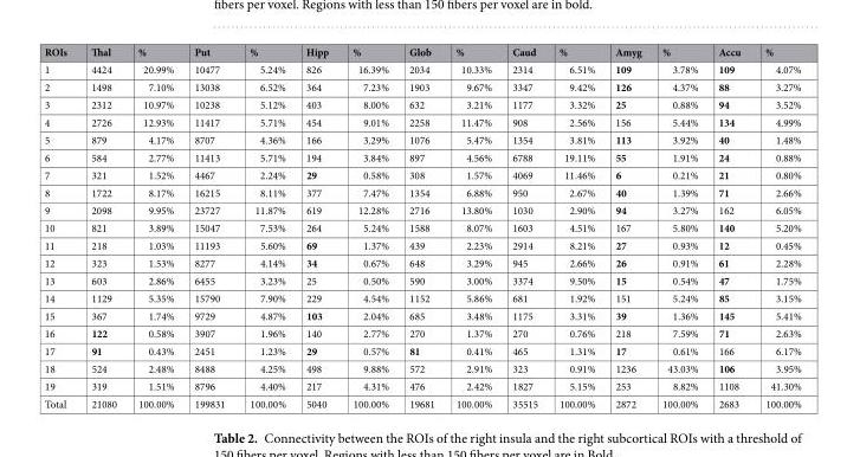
<table><thead><tr><td>ROIs</td><td>Thal</td><td>%</td><td>Put</td><td>%</td><td>Hipp</td><td>%</td><td>Glob</td><td>%</td><td>Caud</td><td>%</td><td>Amyg</td><td>%</td><td>Accu</td><td>%</td></tr></thead><tbody><tr><td>1</td><td>4424</td><td>20.99%</td><td>10477</td><td>5.24%</td><td>826</td><td>16.39%</td><td>2034</td><td>10.33%</td><td>2314</td><td>6.51%</td><td>109</td><td>3.78%</td><td>109</td><td>4.07%</td></tr><tr><td>2</td><td>1498</td><td>7.10%</td><td>13038</td><td>6.52%</td><td>364</td><td>7.23%</td><td>1903</td><td>9.67%</td><td>3347</td><td>9.42%</td><td>126</td><td>4.37%</td><td>88</td><td>3.27%</td></tr><tr><td>3</td><td>2312</td><td>10.97%</td><td>10238</td><td>5.12%</td><td>403</td><td>8.00%</td><td>632</td><td>3.21%</td><td>1177</td><td>3.32%</td><td>25</td><td>0.88%</td><td>94</td><td>3.52%</td></tr><tr><td>4</td><td>2726</td><td>12.93%</td><td>11417</td><td>5.71%</td><td>454</td><td>9.01%</td><td>2258</td><td>11.47%</td><td>908</td><td>2.56%</td><td>156</td><td>5.44%</td><td>134</td><td>4.99%</td></tr><tr><td>5</td><td>879</td><td>4.17%</td><td>8707</td><td>4.36%</td><td>166</td><td>3.29%</td><td>1076</td><td>5.47%</td><td>1354</td><td>3.81%</td><td>113</td><td>3.92%</td><td>40</td><td>1.48%</td></tr><tr><td>6</td><td>584</td><td>2.77%</td><td>11413</td><td>5.71%</td><td>194</td><td>3.84%</td><td>897</td><td>4.56%</td><td>6788</td><td>19.11%</td><td>55</td><td>1.91%</td><td>24</td><td>0.88%</td></tr><tr><td>7</td><td>321</td><td>1.52%</td><td>4467</td><td>2.24%</td><td>29</td><td>0.58%</td><td>308</td><td>1.57%</td><td>4069</td><td>11.46%</td><td>6</td><td>0.21%</td><td>21</td><td>0.80%</td></tr><tr><td>8</td><td>1722</td><td>8.17%</td><td>16215</td><td>8.11%</td><td>377</td><td>7.47%</td><td>1354</td><td>6.88%</td><td>950</td><td>2.67%</td><td>40</td><td>1.39%</td><td>71</td><td>2.66%</td></tr><tr><td>9</td><td>2098</td><td>9.95%</td><td>23727</td><td>11.87%</td><td>619</td><td>12.28%</td><td>2716</td><td>13.80%</td><td>1030</td><td>2.90%</td><td>94</td><td>3.27%</td><td>162</td><td>6.05%</td></tr><tr><td>10</td><td>821</td><td>3.89%</td><td>15047</td><td>7.53%</td><td>264</td><td>5.24%</td><td>1588</td><td>8.07%</td><td>1603</td><td>4.51%</td><td>167</td><td>5.80%</td><td>140</td><td>5.20%</td></tr><tr><td>11</td><td>218</td><td>1.03%</td><td>11193</td><td>5.60%</td><td>69</td><td>1.37%</td><td>439</td><td>2.23%</td><td>2914</td><td>8.21%</td><td>27</td><td>0.93%</td><td>12</td><td>0.45%</td></tr><tr><td>12</td><td>323</td><td>1.53%</td><td>8277</td><td>4.14%</td><td>34</td><td>0.67%</td><td>648</td><td>3.29%</td><td>945</td><td>2.66%</td><td>26</td><td>0.91%</td><td>61</td><td>2.28%</td></tr><tr><td>13</td><td>603</td><td>2.86%</td><td>6455</td><td>3.23%</td><td>25</td><td>0.50%</td><td>590</td><td>3.00%</td><td>3374</td><td>9.50%</td><td>15</td><td>0.54%</td><td>47</td><td>1.75%</td></tr><tr><td>14</td><td>1129</td><td>5.35%</td><td>15790</td><td>7.90%</td><td>229</td><td>4.54%</td><td>1152</td><td>5.86%</td><td>681</td><td>1.92%</td><td>151</td><td>5.24%</td><td>85</td><td>3.15%</td></tr><tr><td>15</td><td>367</td><td>1.74%</td><td>9729</td><td>4.87%</td><td>103</td><td>2.04%</td><td>685</td><td>3.48%</td><td>1175</td><td>3.31%</td><td>39</td><td>1.36%</td><td>145</td><td>5.41%</td></tr><tr><td>16</td><td>122</td><td>0.58%</td><td>3907</td><td>1.96%</td><td>140</td><td>2.77%</td><td>270</td><td>1.37%</td><td>270</td><td>0.76%</td><td>218</td><td>7.59%</td><td>71</td><td>2.63%</td></tr><tr><td>17</td><td>91</td><td>0.43%</td><td>2451</td><td>1.23%</td><td>29</td><td>0.57%</td><td>81</td><td>0.41%</td><td>465</td><td>1.31%</td><td>17</td><td>0.61%</td><td>166</td><td>6.17%</td></tr><tr><td>18</td><td>524</td><td>2.48%</td><td>8488</td><td>4.25%</td><td>498</td><td>9.88%</td><td>572</td><td>2.91%</td><td>323</td><td>0.91%</td><td>1236</td><td>43.03%</td><td>106</td><td>3.95%</td></tr><tr><td>19</td><td>319</td><td>1.51%</td><td>8796</td><td>4.40%</td><td>217</td><td>4.31%</td><td>476</td><td>2.42%</td><td>1827</td><td>5.15%</td><td>253</td><td>8.82%</td><td>1108</td><td>41.30%</td></tr><tr><td>Total</td><td>21080</td><td>100.00%</td><td>199831</td><td>100.00%</td><td>5040</td><td>100.00%</td><td>19681</td><td>100.00%</td><td>35515</td><td>100.00%</td><td>2872</td><td>100.00%</td><td>2683</td><td>100.00%</td></tr></tbody></table>